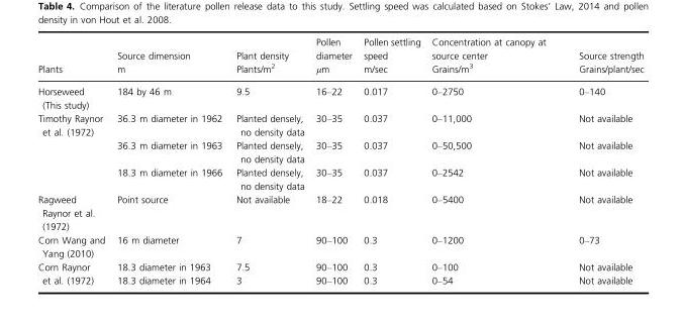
<table><thead><tr><td rowspan="2">Plants</td><td rowspan="2">Source dimension m</td><td rowspan="2">Plant density Plants/m<sup>2</sup></td><td rowspan="2">Pollen diameter μm</td><td rowspan="2">Pollen settling speed m/sec</td><td rowspan="2">Concentration at canopy at source center Grains/m<sup>3</sup></td><td rowspan="2">Source strength Grains/plant/sec</td></tr><tr></tr></thead><tbody><tr><td>Horseweed (This study)</td><td>184 by 46 m</td><td>9.5</td><td>16–22</td><td>0.017</td><td>0–2750</td><td>0–140</td></tr><tr><td rowspan="3">Timothy Raynor et al. (1972)</td><td>36.3 m diameter in 1962</td><td>Planted densely, no density data</td><td>30–35</td><td>0.037</td><td>0–11,000</td><td>Not available</td></tr><tr><td>36.3 m diameter in 1963</td><td>Planted densely, no density data</td><td>30–35</td><td>0.037</td><td>0–50,500</td><td>Not available</td></tr><tr><td>18.3 m diameter in 1966</td><td>Planted densely, no density data</td><td>30–35</td><td>0.037</td><td>0–2542</td><td>Not available</td></tr><tr><td>Ragweed Raynor et al. (1972)</td><td>Point source</td><td>Not available</td><td>18–22</td><td>0.018</td><td>0–5400</td><td>Not available</td></tr><tr><td>Corn Wang and Yang (2010)</td><td>16 m diameter</td><td>7</td><td>90–100</td><td>0.3</td><td>0–1200</td><td>0–73</td></tr><tr><td rowspan="2">Corn Raynor et al. (1972)</td><td>18.3 diameter in 1963</td><td>7.5</td><td>90–100</td><td>0.3</td><td>0–100</td><td>Not available</td></tr><tr><td>18.3 diameter in 1964</td><td>3</td><td>90–100</td><td>0.3</td><td>0–54</td><td>Not available</td></tr></tbody></table>